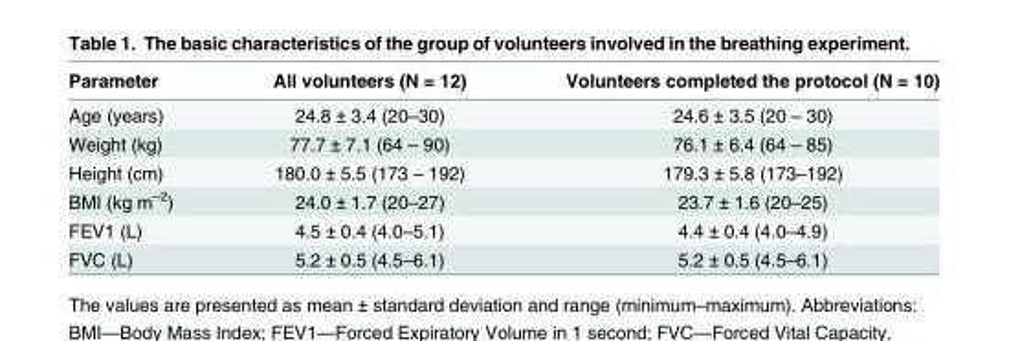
<table><thead><tr><td>Parameter</td><td>All volunteers (N = 12)</td><td>Volunteers completed the protocol (N = 10)</td></tr></thead><tbody><tr><td>Age (years)</td><td>24.8 ± 3.4 (20–30)</td><td>24.6 ± 3.5 (20 – 30)</td></tr><tr><td>Weight (kg)</td><td>77.7 ± 7.1 (64 – 90)</td><td>76.1 ± 6.4 (64 – 85)</td></tr><tr><td>Height (cm)</td><td>180.0 ± 5.5 (173 – 192)</td><td>179.3 ± 5.8 (173–192)</td></tr><tr><td>BMI (kg m<sup>–2</sup>)</td><td>24.0 ± 1.7 (20–27)</td><td>23.7 ± 1.6 (20–25)</td></tr><tr><td>FEV1 (L)</td><td>4.5 ± 0.4 (4.0–5.1)</td><td>4.4 ± 0.4 (4.0–4.9)</td></tr><tr><td>FVC (L)</td><td>5.2 ± 0.5 (4.5–6.1)</td><td>5.2 ± 0.5 (4.5–6.1)</td></tr></tbody></table>